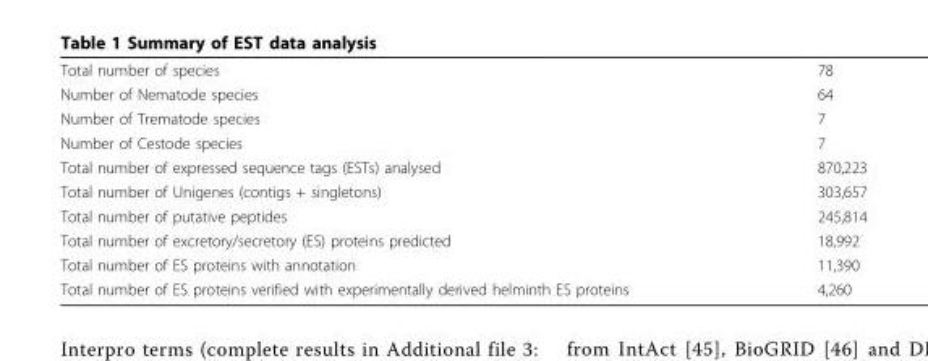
<table><tbody><tr><td>Total number of species</td><td>78</td></tr><tr><td>Number of Nematode species</td><td>64</td></tr><tr><td>Number of Trematode species</td><td>7</td></tr><tr><td>Number of Cestode species</td><td>7</td></tr><tr><td>Total number of expressed sequence tags (ESTs) analysed</td><td>870,223</td></tr><tr><td>Total number of Unigenes (contigs + singletons)</td><td>303,657</td></tr><tr><td>Total number of putative peptides</td><td>245,814</td></tr><tr><td>Total number of excretory/secretory (ES) proteins predicted</td><td>18,992</td></tr><tr><td>Total number of ES proteins with annotation</td><td>11,390</td></tr><tr><td>Total number of ES proteins verified with experimentally derived helminth ES proteins</td><td>4,260</td></tr></tbody></table>